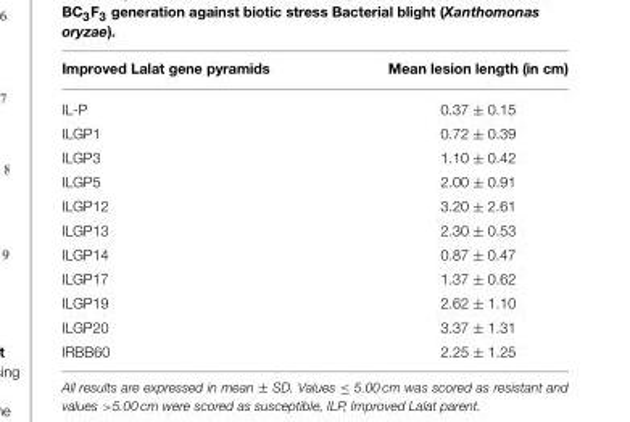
<table><thead><tr><td>Improved Lalat gene pyramids</td><td>Mean lesion length (in cm)</td></tr></thead><tbody><tr><td>IL-P</td><td>0.37 ± 0.15</td></tr><tr><td>ILGP1</td><td>0.72 ± 0.39</td></tr><tr><td>ILGP3</td><td>1.10 ± 0.42</td></tr><tr><td>ILGP5</td><td>2.00 ± 0.91</td></tr><tr><td>ILGP12</td><td>3.20 ± 2.61</td></tr><tr><td>ILGP13</td><td>2.30 ± 0.53</td></tr><tr><td>ILGP14</td><td>0.87 ± 0.47</td></tr><tr><td>ILGP17</td><td>1.37 ± 0.62</td></tr><tr><td>ILGP19</td><td>2.62 ± 1.10</td></tr><tr><td>ILGP20</td><td>3.37 ± 1.31</td></tr><tr><td>IRBB60</td><td>2.25 ± 1.25</td></tr></tbody></table>